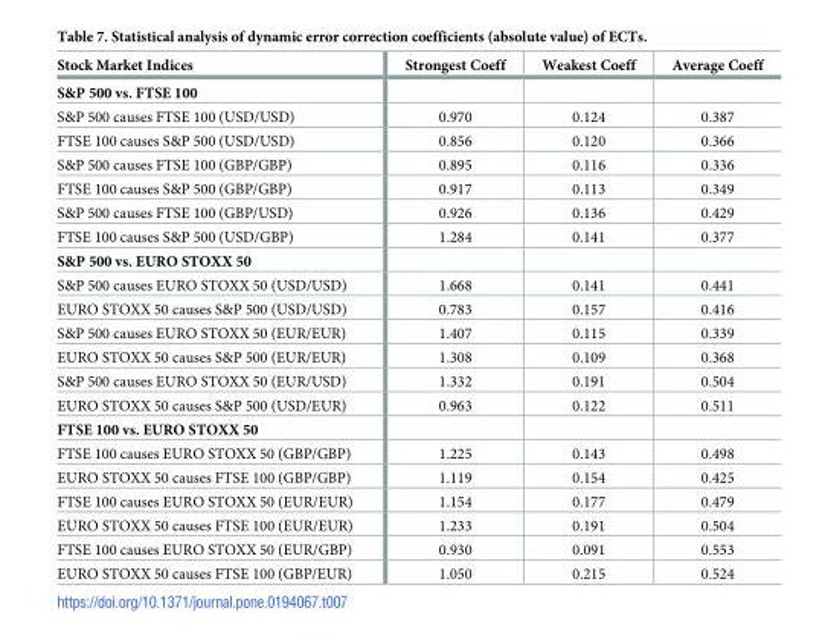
<table><thead><tr><td>Stock Market Indices</td><td>Strongest Coeff</td><td>Weakest Coeff</td><td>Average Coeff</td></tr></thead><tbody><tr><td colspan="4">S&amp;P 500 vs. FTSE 100</td></tr><tr><td>S&amp;P 500 causes FTSE 100 (USD/USD)</td><td>0.970</td><td>0.124</td><td>0.387</td></tr><tr><td>FTSE 100 causes S&amp;P 500 (USD/USD)</td><td>0.856</td><td>0.120</td><td>0.366</td></tr><tr><td>S&amp;P 500 causes FTSE 100 (GBP/GBP)</td><td>0.895</td><td>0.116</td><td>0.336</td></tr><tr><td>FTSE 100 causes S&amp;P 500 (GBP/GBP)</td><td>0.917</td><td>0.113</td><td>0.349</td></tr><tr><td>S&amp;P 500 causes FTSE 100 (GBP/USD)</td><td>0.926</td><td>0.136</td><td>0.429</td></tr><tr><td>FTSE 100 causes S&amp;P 500 (USD/GBP)</td><td>1.284</td><td>0.141</td><td>0.377</td></tr><tr><td colspan="4">S&amp;P 500 vs. EURO STOXX 50</td></tr><tr><td>S&amp;P 500 causes EURO STOXX 50 (USD/USD)</td><td>1.668</td><td>0.141</td><td>0.441</td></tr><tr><td>EURO STOXX 50 causes S&amp;P 500 (USD/USD)</td><td>0.783</td><td>0.157</td><td>0.416</td></tr><tr><td>S&amp;P 500 causes EURO STOXX 50 (EUR/EUR)</td><td>1.407</td><td>0.115</td><td>0.339</td></tr><tr><td>EURO STOXX 50 causes S&amp;P 500 (EUR/EUR)</td><td>1.308</td><td>0.109</td><td>0.368</td></tr><tr><td>S&amp;P 500 causes EURO STOXX 50 (EUR/USD)</td><td>1.332</td><td>0.191</td><td>0.504</td></tr><tr><td>EURO STOXX 50 causes S&amp;P 500 (USD/EUR)</td><td>0.963</td><td>0.122</td><td>0.511</td></tr><tr><td colspan="4">FTSE 100 vs. EURO STOXX 50</td></tr><tr><td>FTSE 100 causes EURO STOXX 50 (GBP/GBP)</td><td>1.225</td><td>0.143</td><td>0.498</td></tr><tr><td>EURO STOXX 50 causes FTSE 100 (GBP/GBP)</td><td>1.119</td><td>0.154</td><td>0.425</td></tr><tr><td>FTSE 100 causes EURO STOXX 50 (EUR/EUR)</td><td>1.154</td><td>0.177</td><td>0.479</td></tr><tr><td>EURO STOXX 50 causes FTSE 100 (EUR/EUR)</td><td>1.233</td><td>0.191</td><td>0.504</td></tr><tr><td>FTSE 100 causes EURO STOXX 50 (EUR/GBP)</td><td>0.930</td><td>0.091</td><td>0.553</td></tr><tr><td>EURO STOXX 50 causes FTSE 100 (GBP/EUR)</td><td>1.050</td><td>0.215</td><td>0.524</td></tr></tbody></table>